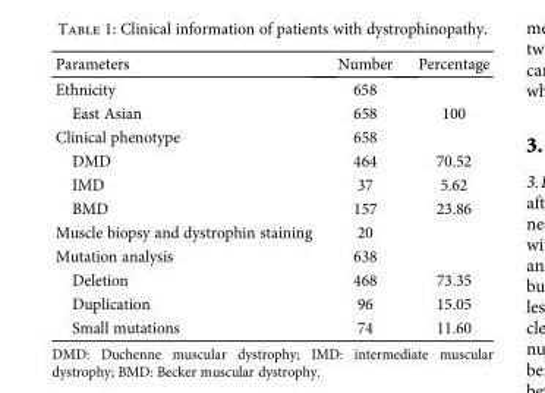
<table><thead><tr><td>Parameters</td><td>Number</td><td>Percentage</td></tr></thead><tbody><tr><td>Ethnicity</td><td>658</td><td></td></tr><tr><td>East Asian</td><td>658</td><td>100</td></tr><tr><td>Clinical phenotype</td><td>658</td><td></td></tr><tr><td>DMD</td><td>464</td><td>70.52</td></tr><tr><td>IMD</td><td>37</td><td>5.62</td></tr><tr><td>BMD</td><td>157</td><td>23.86</td></tr><tr><td>Muscle biopsy and dystrophin staining</td><td>20</td><td></td></tr><tr><td>Mutation analysis</td><td>638</td><td></td></tr><tr><td>Deletion</td><td>468</td><td>73.35</td></tr><tr><td>Duplication</td><td>96</td><td>15.05</td></tr><tr><td>Small mutations</td><td>74</td><td>11.60</td></tr></tbody></table>